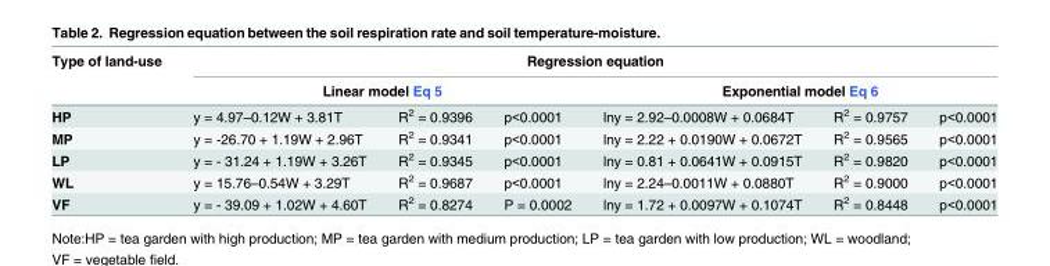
<table><thead><tr><td rowspan="3">Type of land-use HP</td><td colspan="6">Regression equation</td></tr><tr><td colspan="3">Linear model Eq 5</td><td colspan="3">Exponential model Eq 6</td></tr><tr><td>y = 4.97–0.12W + 3.81T</td><td>R<sup>2</sup> = 0.9396</td><td>p&lt;0.0001</td><td>lny = 2.92–0.0008W + 0.0684T</td><td>R<sup>2</sup> = 0.9757</td><td>p&lt;0.0001</td></tr></thead><tbody><tr><td>MP</td><td>y = -26.70 + 1.19W + 2.96T</td><td>R<sup>2</sup> = 0.9341</td><td>p&lt;0.0001</td><td>lny = 2.22 + 0.0190W + 0.0672T</td><td>R<sup>2</sup> = 0.9565</td><td>p&lt;0.0001</td></tr><tr><td>LP</td><td>y = - 31.24 + 1.19W + 3.26T</td><td>R<sup>2</sup> = 0.9345</td><td>p&lt;0.0001</td><td>lny = 0.81 + 0.0641W + 0.0915T</td><td>R<sup>2</sup> = 0.9820</td><td>p&lt;0.0001</td></tr><tr><td>WL</td><td>y = 15.76–0.54W + 3.29T</td><td>R<sup>2</sup> = 0.9687</td><td>p&lt;0.0001</td><td>lny = 2.24–0.0011W + 0.0880T</td><td>R<sup>2</sup> = 0.9000</td><td>p&lt;0.0001</td></tr><tr><td>VF</td><td>y = - 39.09 + 1.02W + 4.60T</td><td>R<sup>2</sup> = 0.8274</td><td>P = 0.0002</td><td>lny = 1.72 + 0.0097W + 0.1074T</td><td>R<sup>2</sup> = 0.8448</td><td>p&lt;0.0001</td></tr></tbody></table>